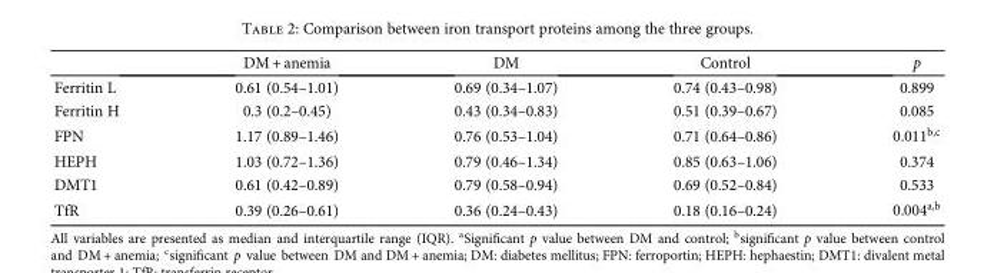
<table><thead><tr><td></td><td>DM + anemia</td><td>DM</td><td>Control</td><td>p</td></tr></thead><tbody><tr><td>Ferritin L</td><td>0.61 (0.54–1.01)</td><td>0.69 (0.34–1.07)</td><td>0.74 (0.43–0.98)</td><td>0.899</td></tr><tr><td>Ferritin H</td><td>0.3 (0.2–0.45)</td><td>0.43 (0.34–0.83)</td><td>0.51 (0.39–0.67)</td><td>0.085</td></tr><tr><td>FPN</td><td>1.17 (0.89–1.46)</td><td>0.76 (0.53–1.04)</td><td>0.71 (0.64–0.86)</td><td>0.011<sup>b,c</sup></td></tr><tr><td>HEPH</td><td>1.03 (0.72–1.36)</td><td>0.79 (0.46–1.34)</td><td>0.85 (0.63–1.06)</td><td>0.374</td></tr><tr><td>DMT1</td><td>0.61 (0.42–0.89)</td><td>0.79 (0.58–0.94)</td><td>0.69 (0.52–0.84)</td><td>0.533</td></tr><tr><td>TfR</td><td>0.39 (0.26–0.61)</td><td>0.36 (0.24–0.43)</td><td>0.18 (0.16–0.24)</td><td>0.004<sup>a,b</sup></td></tr></tbody></table>